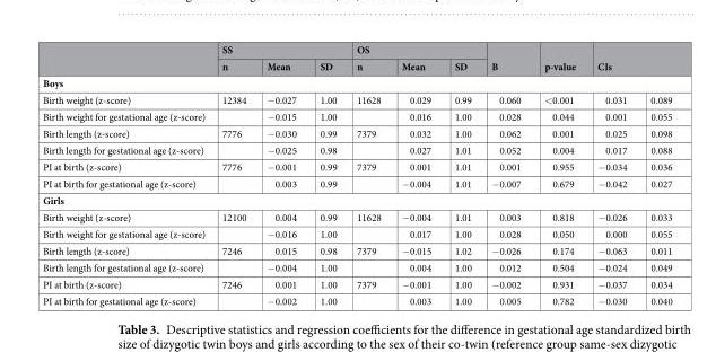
<table><thead><tr><td rowspan="2"></td><td colspan="3">SS</td><td colspan="3">OS</td><td rowspan="2">B</td><td rowspan="2">p-value</td><td rowspan="2" colspan="2">CIs</td></tr><tr><td>n</td><td>Mean</td><td>SD</td><td>n</td><td>Mean</td><td>SD</td></tr><tr><td colspan="11">Boys</td></tr><tr><td>Birth weight (z-score)</td><td>12384</td><td>−0.027</td><td>1.00</td><td>11628</td><td>0.029</td><td>0.99</td><td>0.060</td><td>&lt;0.001</td><td>0.031</td><td>0.089</td></tr></thead><tbody><tr><td>Birth weight for gestational age (z-score)</td><td></td><td>−0.015</td><td>1.00</td><td></td><td>0.016</td><td>1.00</td><td>0.028</td><td>0.044</td><td>0.001</td><td>0.055</td></tr><tr><td>Birth length (z-score)</td><td>7776</td><td>−0.030</td><td>0.99</td><td>7379</td><td>0.032</td><td>1.00</td><td>0.062</td><td>0.001</td><td>0.025</td><td>0.098</td></tr><tr><td>Birth length for gestational age (z-score)</td><td></td><td>−0.025</td><td>0.98</td><td></td><td>0.027</td><td>1.01</td><td>0.052</td><td>0.004</td><td>0.017</td><td>0.088</td></tr><tr><td>PI at birth (z-score)</td><td>7776</td><td>−0.001</td><td>0.99</td><td>7379</td><td>0.001</td><td>1.01</td><td>0.001</td><td>0.955</td><td>−0.034</td><td>0.036</td></tr><tr><td>PI at birth for gestational age (z-score)</td><td></td><td>0.003</td><td>0.99</td><td></td><td>−0.004</td><td>1.01</td><td>−0.007</td><td>0.679</td><td>−0.042</td><td>0.027</td></tr><tr><td colspan="11">Girls</td></tr><tr><td>Birth weight (z-score)</td><td>12100</td><td>0.004</td><td>0.99</td><td>11628</td><td>−0.004</td><td>1.01</td><td>0.003</td><td>0.818</td><td>−0.026</td><td>0.033</td></tr><tr><td>Birth weight for gestational age (z-score)</td><td></td><td>−0.016</td><td>1.00</td><td></td><td>0.017</td><td>1.00</td><td>0.028</td><td>0.050</td><td>0.000</td><td>0.055</td></tr><tr><td>Birth length (z-score)</td><td>7246</td><td>0.015</td><td>0.98</td><td>7379</td><td>−0.015</td><td>1.02</td><td>−0.026</td><td>0.174</td><td>−0.063</td><td>0.011</td></tr><tr><td>Birth length for gestational age (z-score)</td><td></td><td>−0.004</td><td>1.00</td><td></td><td>0.004</td><td>1.00</td><td>0.012</td><td>0.504</td><td>−0.024</td><td>0.049</td></tr><tr><td>PI at birth (z-score)</td><td>7246</td><td>0.001</td><td>1.00</td><td>7379</td><td>−0.001</td><td>1.00</td><td>−0.002</td><td>0.931</td><td>−0.037</td><td>0.034</td></tr><tr><td>PI at birth for gestational age (z-score)</td><td></td><td>−0.002</td><td>1.00</td><td></td><td>0.003</td><td>1.00</td><td>0.005</td><td>0.782</td><td>−0.030</td><td>0.040</td></tr></tbody></table>